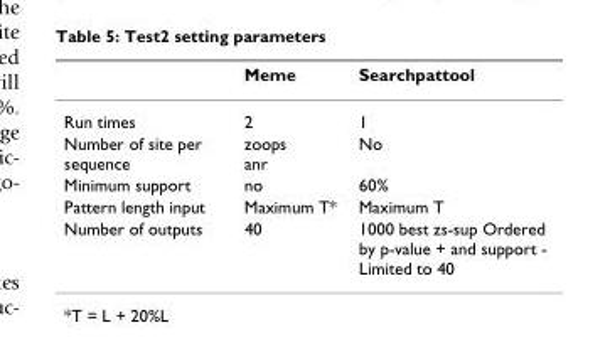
<table><thead><tr><td></td><td>Meme</td><td>Searchpattool</td></tr></thead><tbody><tr><td>Run times</td><td>2</td><td>1</td></tr><tr><td>Number of site per sequence</td><td>zoops anr</td><td>No</td></tr><tr><td>Minimum support</td><td>no</td><td>60%</td></tr><tr><td>Pattern length input</td><td>Maximum T*</td><td>Maximum T</td></tr><tr><td>Number of outputs</td><td>40</td><td>1000 best zs-sup Ordered by p-value + and support - Limited to 40</td></tr></tbody></table>